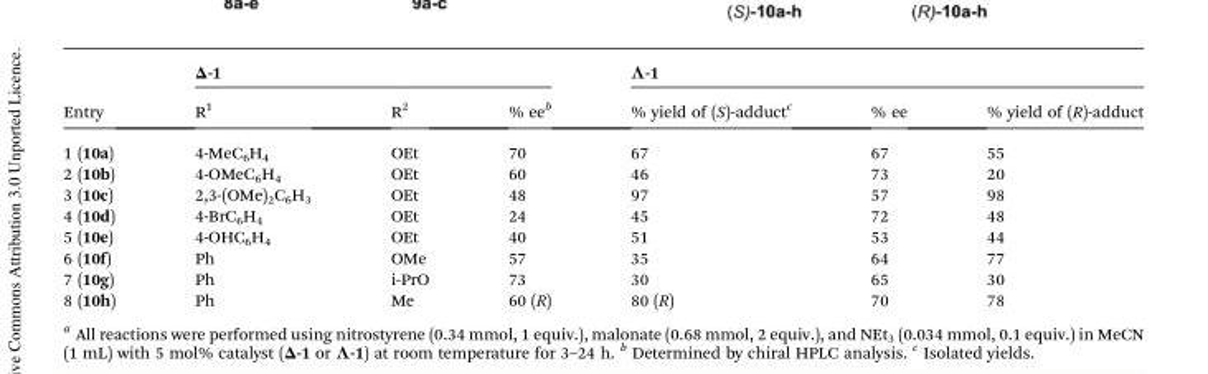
<table><thead><tr><td rowspan="2">Entry</td><td colspan="3">Δ-1</td><td colspan="3">Λ-1</td></tr><tr><td>R<sup>1</sup></td><td>R<sup>2</sup></td><td>% ee<sup>b</sup></td><td>% yield of (S)-adduct<sup>c</sup></td><td>% ee</td><td>% yield of (R)-adduct</td></tr></thead><tbody><tr><td>1 (10a)</td><td>4-MeC<sub>6</sub>H<sub>4</sub></td><td>OEt</td><td>70</td><td>67</td><td>67</td><td>55</td></tr><tr><td>2 (10b)</td><td>4-OMeC<sub>6</sub>H<sub>4</sub></td><td>OEt</td><td>60</td><td>46</td><td>73</td><td>20</td></tr><tr><td>3 (10c)</td><td>2,3-(OMe)<sub>2</sub>C<sub>6</sub>H<sub>3</sub></td><td>OEt</td><td>48</td><td>97</td><td>57</td><td>98</td></tr><tr><td>4 (10d)</td><td>4-BrC<sub>6</sub>H<sub>4</sub></td><td>OEt</td><td>24</td><td>45</td><td>72</td><td>48</td></tr><tr><td>5 (10e)</td><td>4-OHC<sub>6</sub>H<sub>4</sub></td><td>OEt</td><td>40</td><td>51</td><td>53</td><td>44</td></tr><tr><td>6 (10f)</td><td>Ph</td><td>OMe</td><td>57</td><td>35</td><td>64</td><td>77</td></tr><tr><td>7 (10g)</td><td>Ph</td><td>i-PrO</td><td>73</td><td>30</td><td>65</td><td>30</td></tr><tr><td>8 (10h)</td><td>Ph</td><td>Me</td><td>60 (R)</td><td>80 (R)</td><td>70</td><td>78</td></tr></tbody></table>